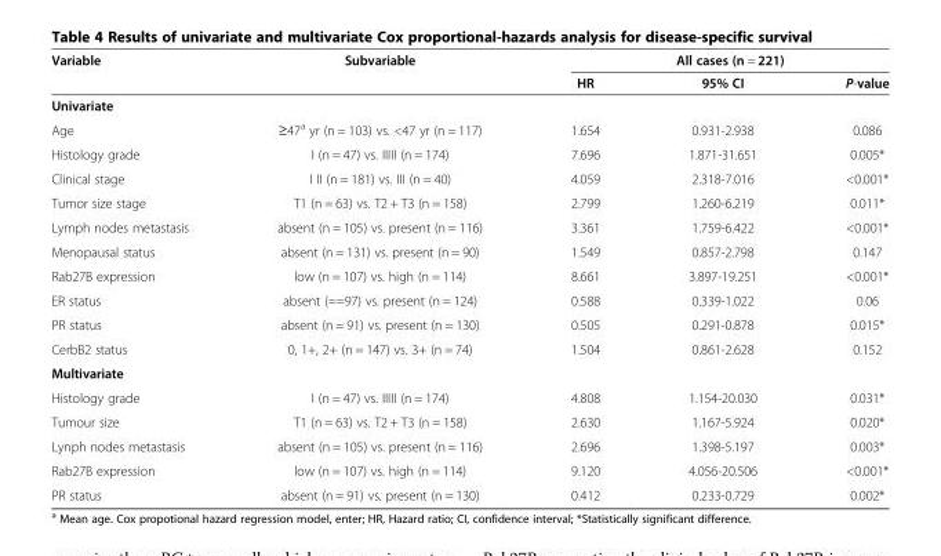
<table><thead><tr><td rowspan="2">Variable</td><td rowspan="2">Subvariable</td><td colspan="3">All cases (n = 221)</td></tr><tr><td>HR</td><td>95% CI</td><td>P-value</td></tr></thead><tbody><tr><td colspan="5">Univariate</td></tr><tr><td>Age</td><td>≥47<sup>a</sup> yr (n = 103) vs. &lt;47 yr (n = 117)</td><td>1.654</td><td>0.931-2.938</td><td>0.086</td></tr><tr><td>Histology grade</td><td>I (n = 47) vs. IIIII (n = 174)</td><td>7.696</td><td>1.871-31.651</td><td>0.005*</td></tr><tr><td>Clinical stage</td><td>I II (n = 181) vs. III (n = 40)</td><td>4.059</td><td>2.318-7.016</td><td>&lt;0.001*</td></tr><tr><td>Tumor size stage</td><td>T1 (n = 63) vs. T2 + T3 (n = 158)</td><td>2.799</td><td>1.260-6.219</td><td>0.011*</td></tr><tr><td>Lymph nodes metastasis</td><td>absent (n = 105) vs. present (n = 116)</td><td>3.361</td><td>1.759-6.422</td><td>&lt;0.001*</td></tr><tr><td>Menopausal status</td><td>absent (n = 131) vs. present (n = 90)</td><td>1.549</td><td>0.857-2.798</td><td>0.147</td></tr><tr><td>Rab27B expression</td><td>low (n = 107) vs. high (n = 114)</td><td>8.661</td><td>3.897-19.251</td><td>&lt;0.001*</td></tr><tr><td>ER status</td><td>absent (==97) vs. present (n = 124)</td><td>0.588</td><td>0.339-1.022</td><td>0.06</td></tr><tr><td>PR status</td><td>absent (n = 91) vs. present (n = 130)</td><td>0.505</td><td>0.291-0.878</td><td>0.015*</td></tr><tr><td>CerbB2 status</td><td>0, 1+, 2+ (n = 147) vs. 3+ (n = 74)</td><td>1.504</td><td>0.861-2.628</td><td>0.152</td></tr><tr><td colspan="5">Multivariate</td></tr><tr><td>Histology grade</td><td>I (n = 47) vs. IIIII (n = 174)</td><td>4.808</td><td>1.154-20.030</td><td>0.031*</td></tr><tr><td>Tumour size</td><td>T1 (n = 63) vs. T2 + T3 (n = 158)</td><td>2.630</td><td>1.167-5.924</td><td>0.020*</td></tr><tr><td>Lynph nodes metastasis</td><td>absent (n = 105) vs. present (n = 116)</td><td>2.696</td><td>1.398-5.197</td><td>0.003*</td></tr><tr><td>Rab27B expression</td><td>low (n = 107) vs. high (n = 114)</td><td>9.120</td><td>4.056-20.506</td><td>&lt;0.001*</td></tr><tr><td>PR status</td><td>absent (n = 91) vs. present (n = 130)</td><td>0.412</td><td>0.233-0.729</td><td>0.002*</td></tr></tbody></table>